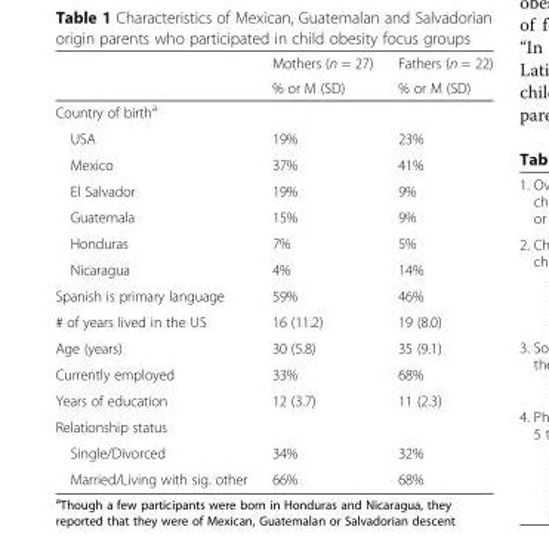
<table><thead><tr><td rowspan="2"></td><td rowspan="2">Mothers (n = 27) % or M (SD)</td><td rowspan="2">Fathers (n = 22) % or M (SD)</td></tr><tr></tr></thead><tbody><tr><td colspan="3">Country of birth<sup>a</sup></td></tr><tr><td>USA</td><td>19%</td><td>23%</td></tr><tr><td>Mexico</td><td>37%</td><td>41%</td></tr><tr><td>El Salvador</td><td>19%</td><td>9%</td></tr><tr><td>Guatemala</td><td>15%</td><td>9%</td></tr><tr><td>Honduras</td><td>7%</td><td>5%</td></tr><tr><td>Nicaragua</td><td>4%</td><td>14%</td></tr><tr><td>Spanish is primary language</td><td>59%</td><td>46%</td></tr><tr><td># of years lived in the US</td><td>16 (11.2)</td><td>19 (8.0)</td></tr><tr><td>Age (years)</td><td>30 (5.8)</td><td>35 (9.1)</td></tr><tr><td>Currently employed</td><td>33%</td><td>68%</td></tr><tr><td>Years of education</td><td>12 (3.7)</td><td>11 (2.3)</td></tr><tr><td colspan="3">Relationship status</td></tr><tr><td>Single/Divorced</td><td>34%</td><td>32%</td></tr><tr><td>Married/Living with sig. other</td><td>66%</td><td>68%</td></tr></tbody></table>